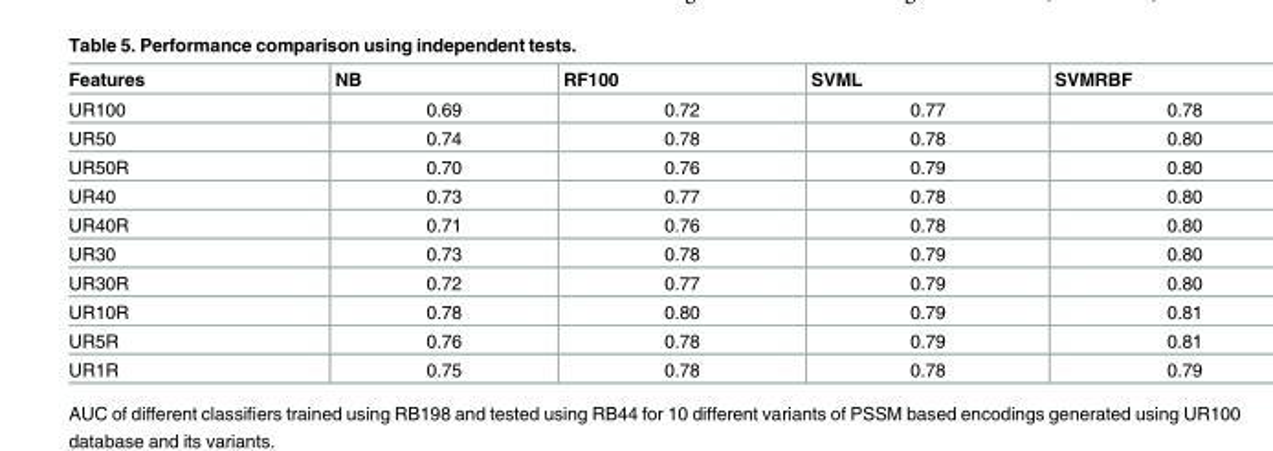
<table><thead><tr><td>Features</td><td>NB</td><td>RF100</td><td>SVML</td><td>SVMRBF</td></tr></thead><tbody><tr><td>UR100</td><td>0.69</td><td>0.72</td><td>0.77</td><td>0.78</td></tr><tr><td>UR50</td><td>0.74</td><td>0.78</td><td>0.78</td><td>0.80</td></tr><tr><td>UR50R</td><td>0.70</td><td>0.76</td><td>0.79</td><td>0.80</td></tr><tr><td>UR40</td><td>0.73</td><td>0.77</td><td>0.78</td><td>0.80</td></tr><tr><td>UR40R</td><td>0.71</td><td>0.76</td><td>0.78</td><td>0.80</td></tr><tr><td>UR30</td><td>0.73</td><td>0.78</td><td>0.79</td><td>0.80</td></tr><tr><td>UR30R</td><td>0.72</td><td>0.77</td><td>0.79</td><td>0.80</td></tr><tr><td>UR10R</td><td>0.78</td><td>0.80</td><td>0.79</td><td>0.81</td></tr><tr><td>UR5R</td><td>0.76</td><td>0.78</td><td>0.79</td><td>0.81</td></tr><tr><td>UR1R</td><td>0.75</td><td>0.78</td><td>0.78</td><td>0.79</td></tr></tbody></table>